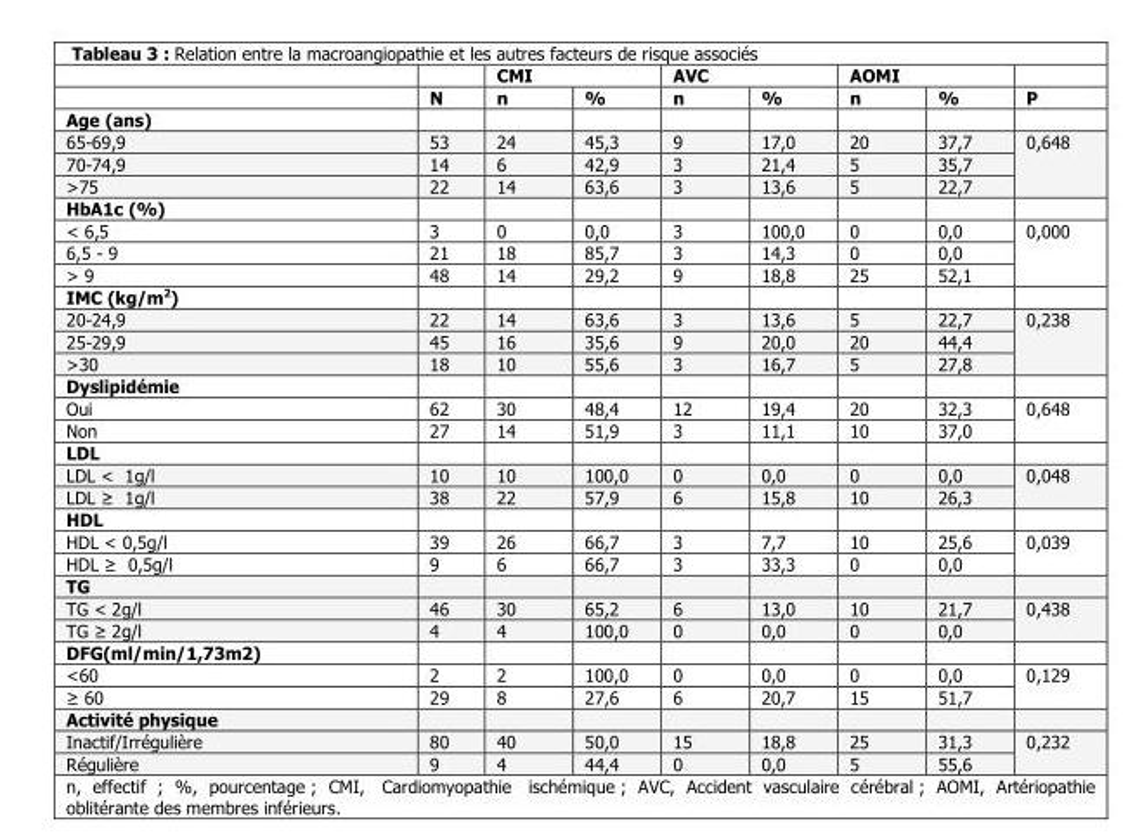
<table><thead><tr><td rowspan="2"></td><td rowspan="2">N</td><td colspan="2">CMI</td><td colspan="2">AVC</td><td colspan="2">AOMI</td><td rowspan="2">P</td></tr><tr><td>n</td><td>%</td><td>n</td><td>%</td><td>n</td><td>%</td></tr></thead><tbody><tr><td colspan="9">Age (ans)</td></tr><tr><td>65-69,9</td><td>53</td><td>24</td><td>45,3</td><td>9</td><td>17,0</td><td>20</td><td>37,7</td><td rowspan="3">0,648</td></tr><tr><td>70-74,9</td><td>14</td><td>6</td><td>42,9</td><td>3</td><td>21,4</td><td>5</td><td>35,7</td></tr><tr><td>&gt;75</td><td>22</td><td>14</td><td>63,6</td><td>3</td><td>13,6</td><td>5</td><td>22,7</td></tr><tr><td colspan="9">HbA1c (%)</td></tr><tr><td>&lt; 6,5</td><td>3</td><td>0</td><td>0,0</td><td>3</td><td>100,0</td><td>0</td><td>0,0</td><td rowspan="3">0,000</td></tr><tr><td>6,5 - 9</td><td>21</td><td>18</td><td>85,7</td><td>3</td><td>14,3</td><td>0</td><td>0,0</td></tr><tr><td>&gt; 9</td><td>48</td><td>14</td><td>29,2</td><td>9</td><td>18,8</td><td>25</td><td>52,1</td></tr><tr><td colspan="9">IMC (kg/m<sup>2</sup>)</td></tr><tr><td>20-24,9</td><td>22</td><td>14</td><td>63,6</td><td>3</td><td>13,6</td><td>5</td><td>22,7</td><td rowspan="3">0,238</td></tr><tr><td>25-29,9</td><td>45</td><td>16</td><td>35,6</td><td>9</td><td>20,0</td><td>20</td><td>44,4</td></tr><tr><td>&gt;30</td><td>18</td><td>10</td><td>55,6</td><td>3</td><td>16,7</td><td>5</td><td>27,8</td></tr><tr><td colspan="9">Dyslipidémie</td></tr><tr><td>Oui</td><td>62</td><td>30</td><td>48,4</td><td>12</td><td>19,4</td><td>20</td><td>32,3</td><td rowspan="2">0,648</td></tr><tr><td>Non</td><td>27</td><td>14</td><td>51,9</td><td>3</td><td>11,1</td><td>10</td><td>37,0</td></tr><tr><td colspan="9">LDL</td></tr><tr><td>LDL ˂ 1g/l</td><td>10</td><td>10</td><td>100,0</td><td>0</td><td>0,0</td><td>0</td><td>0,0</td><td rowspan="2">0,048</td></tr><tr><td>LDL ≥ 1g/l</td><td>38</td><td>22</td><td>57,9</td><td>6</td><td>15,8</td><td>10</td><td>26,3</td></tr><tr><td colspan="9">HDL</td></tr><tr><td>HDL &lt; 0,5g/l</td><td>39</td><td>26</td><td>66,7</td><td>3</td><td>7,7</td><td>10</td><td>25,6</td><td rowspan="2">0,039</td></tr><tr><td>HDL ≥ 0,5g/l</td><td>9</td><td>6</td><td>66,7</td><td>3</td><td>33,3</td><td>0</td><td>0,0</td></tr><tr><td colspan="9">TG</td></tr><tr><td>TG ˂ 2g/l</td><td>46</td><td>30</td><td>65,2</td><td>6</td><td>13,0</td><td>10</td><td>21,7</td><td rowspan="2">0,438</td></tr><tr><td>TG ≥ 2g/l</td><td>4</td><td>4</td><td>100,0</td><td>0</td><td>0,0</td><td>0</td><td>0,0</td></tr><tr><td colspan="9">DFG(ml/min/1,73m2)</td></tr><tr><td>&lt;60</td><td>2</td><td>2</td><td>100,0</td><td>0</td><td>0,0</td><td>0</td><td>0,0</td><td rowspan="2">0,129</td></tr><tr><td>≥ 60</td><td>29</td><td>8</td><td>27,6</td><td>6</td><td>20,7</td><td>15</td><td>51,7</td></tr><tr><td colspan="9">Activité physique</td></tr><tr><td>Inactif/Irrégulière</td><td>80</td><td>40</td><td>50,0</td><td>15</td><td>18,8</td><td>25</td><td>31,3</td><td rowspan="2">0,232</td></tr><tr><td>Régulière</td><td>9</td><td>4</td><td>44,4</td><td>0</td><td>0,0</td><td>5</td><td>55,6</td></tr></tbody></table>